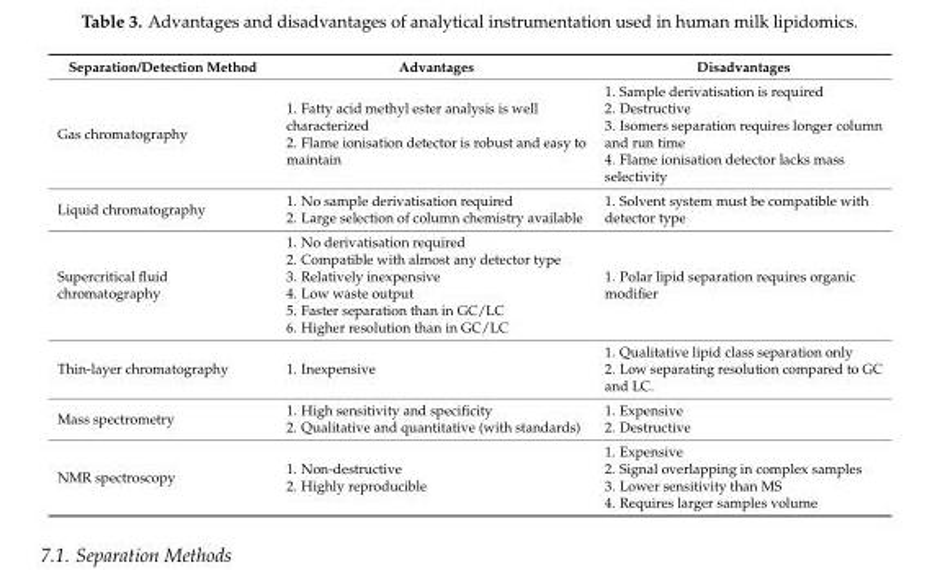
<table><thead><tr><td>Separation/Detection Method</td><td>Advantages</td><td>Disadvantages</td></tr></thead><tbody><tr><td>Gas chromatography</td><td>1. Fatty acid methyl ester analysis is well characterized 2. Flame ionisation detector is robust and easy to maintain</td><td>1. Sample derivatisation is required 2. Destructive 3. Isomers separation requires longer column and run time 4. Flame ionisation detector lacks mass selectivity</td></tr><tr><td>Liquid chromatography</td><td>1. No sample derivatisation required 2. Large selection of column chemistry available</td><td>1. Solvent system must be compatible with detector type</td></tr><tr><td>Supercritical fluid chromatography</td><td>1. No derivatisation required 2. Compatible with almost any detector type 3. Relatively inexpensive 4. Low waste output 5. Faster separation than in GC/LC 6. Higher resolution than in GC/LC</td><td>1. Polar lipid separation requires organic modifier</td></tr><tr><td>Thin-layer chromatography</td><td>1. Inexpensive</td><td>1. Qualitative lipid class separation only 2. Low separating resolution compared to GC and LC.</td></tr><tr><td>Mass spectrometry</td><td>1. High sensitivity and specificity 2. Qualitative and quantitative (with standards)</td><td>1. Expensive 2. Destructive</td></tr><tr><td>NMR spectroscopy</td><td>1. Non-destructive 2. Highly reproducible</td><td>1. Expensive 2. Signal overlapping in complex samples 3. Lower sensitivity than MS 4. Requires larger samples volume</td></tr></tbody></table>